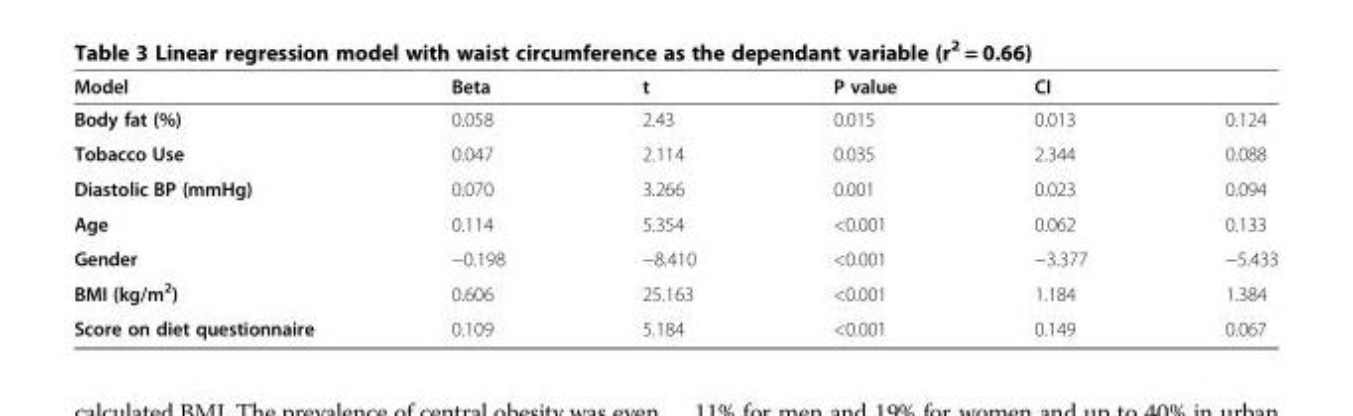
<table><thead><tr><td rowspan="2">Model Body fat (%)</td><td rowspan="2">Beta 0.058</td><td rowspan="2">t 2.43</td><td rowspan="2">P value 0.015</td><td colspan="2">CI</td></tr><tr><td>0.013</td><td>0.124</td></tr></thead><tbody><tr><td>Tobacco Use</td><td>0.047</td><td>2.114</td><td>0.035</td><td>2.344</td><td>0.088</td></tr><tr><td>Diastolic BP (mmHg)</td><td>0.070</td><td>3.266</td><td>0.001</td><td>0.023</td><td>0.094</td></tr><tr><td>Age</td><td>0.114</td><td>5.354</td><td>&lt;0.001</td><td>0.062</td><td>0.133</td></tr><tr><td>Gender</td><td>−0.198</td><td>−8.410</td><td>&lt;0.001</td><td>−3.377</td><td>−5.433</td></tr><tr><td>BMI (kg/m<sup>2</sup>)</td><td>0.606</td><td>25.163</td><td>&lt;0.001</td><td>1.184</td><td>1.384</td></tr><tr><td>Score on diet questionnaire</td><td>0.109</td><td>5.184</td><td>&lt;0.001</td><td>0.149</td><td>0.067</td></tr></tbody></table>